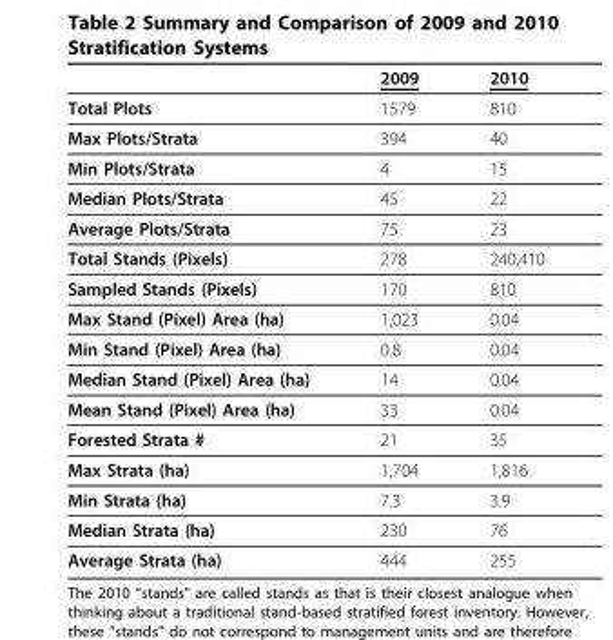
<table><thead><tr><td></td><td>2009</td><td>2010</td></tr></thead><tbody><tr><td>Total Plots</td><td>1579</td><td>810</td></tr><tr><td>Max Plots/Strata</td><td>394</td><td>40</td></tr><tr><td>Min Plots/Strata</td><td>4</td><td>15</td></tr><tr><td>Median Plots/Strata</td><td>45</td><td>22</td></tr><tr><td>Average Plots/Strata</td><td>75</td><td>23</td></tr><tr><td>Total Stands (Pixels)</td><td>278</td><td>240,410</td></tr><tr><td>Sampled Stands (Pixels)</td><td>170</td><td>810</td></tr><tr><td>Max Stand (Pixel) Area (ha)</td><td>1,023</td><td>0.04</td></tr><tr><td>Min Stand (Pixel) Area (ha)</td><td>0.8</td><td>0.04</td></tr><tr><td>Median Stand (Pixel) Area (ha)</td><td>14</td><td>0.04</td></tr><tr><td>Mean Stand (Pixel) Area (ha)</td><td>33</td><td>0.04</td></tr><tr><td>Forested Strata #</td><td>21</td><td>35</td></tr><tr><td>Max Strata (ha)</td><td>1,704</td><td>1,816</td></tr><tr><td>Min Strata (ha)</td><td>7.3</td><td>3.9</td></tr><tr><td>Median Strata (ha)</td><td>230</td><td>76</td></tr><tr><td>Average Strata (ha)</td><td>444</td><td>255</td></tr></tbody></table>